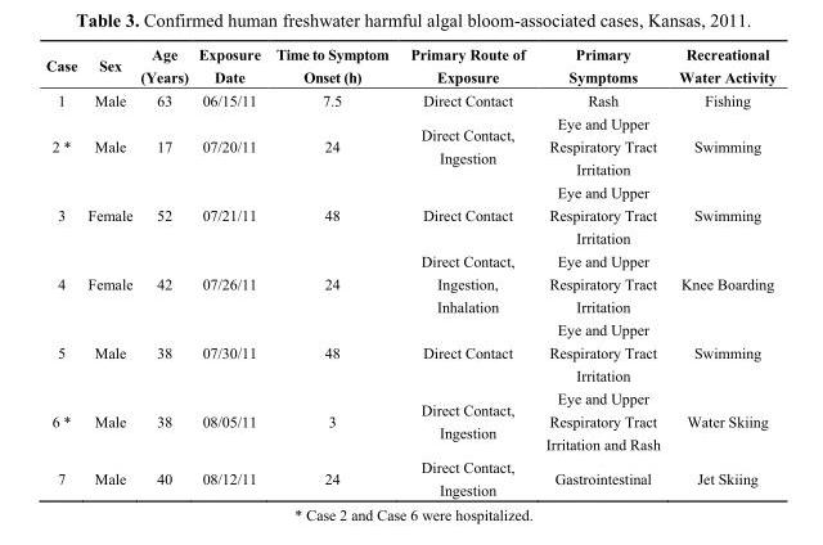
<table><thead><tr><td>Case</td><td>Sex</td><td>Age (Years)</td><td>Exposure Date</td><td>Time to Symptom Onset (h)</td><td>Primary Route of Exposure</td><td>Primary Symptoms</td><td>Recreational Water Activity</td></tr></thead><tbody><tr><td>1</td><td>Male</td><td>63</td><td>06/15/11</td><td>7.5</td><td>Direct Contact</td><td>Rash</td><td>Fishing</td></tr><tr><td>2 *</td><td>Male</td><td>17</td><td>07/20/11</td><td>24</td><td>Direct Contact, Ingestion</td><td>Eye and Upper Respiratory Tract Irritation</td><td>Swimming</td></tr><tr><td>3</td><td>Female</td><td>52</td><td>07/21/11</td><td>48</td><td>Direct Contact</td><td>Eye and Upper Respiratory Tract Irritation</td><td>Swimming</td></tr><tr><td>4</td><td>Female</td><td>42</td><td>07/26/11</td><td>24</td><td>Direct Contact, Ingestion, Inhalation</td><td>Eye and Upper Respiratory Tract Irritation</td><td>Knee Boarding</td></tr><tr><td>5</td><td>Male</td><td>38</td><td>07/30/11</td><td>48</td><td>Direct Contact</td><td>Eye and Upper Respiratory Tract Irritation</td><td>Swimming</td></tr><tr><td>6 *</td><td>Male</td><td>38</td><td>08/05/11</td><td>3</td><td>Direct Contact, Ingestion</td><td>Eye and Upper Respiratory Tract Irritation and Rash</td><td>Water Skiing</td></tr><tr><td>7</td><td>Male</td><td>40</td><td>08/12/11</td><td>24</td><td>Direct Contact, Ingestion</td><td>Gastrointestinal</td><td>Jet Skiing</td></tr></tbody></table>